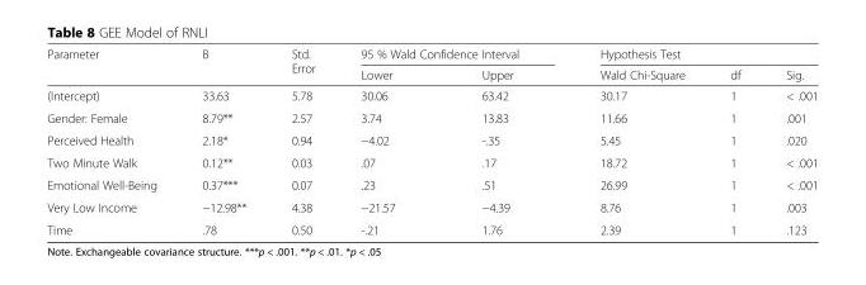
<table><thead><tr><td rowspan="2">Parameter</td><td rowspan="2">B</td><td rowspan="2">Std. Error</td><td colspan="2">95 % Wald Confidence Interval</td><td colspan="3">Hypothesis Test</td></tr><tr><td>Lower</td><td>Upper</td><td>Wald Chi-Square</td><td>df</td><td>Sig.</td></tr></thead><tbody><tr><td>(Intercept)</td><td>33.63</td><td>5.78</td><td>30.06</td><td>63.42</td><td>30.17</td><td>1</td><td>&lt; .001</td></tr><tr><td>Gender: Female</td><td>8.79**</td><td>2.57</td><td>3.74</td><td>13.83</td><td>11.66</td><td>1</td><td>.001</td></tr><tr><td>Perceived Health</td><td>2.18*</td><td>0.94</td><td>−4.02</td><td>-.35</td><td>5.45</td><td>1</td><td>.020</td></tr><tr><td>Two Minute Walk</td><td>0.12**</td><td>0.03</td><td>.07</td><td>.17</td><td>18.72</td><td>1</td><td>&lt; .001</td></tr><tr><td>Emotional Well-Being</td><td>0.37***</td><td>0.07</td><td>.23</td><td>.51</td><td>26.99</td><td>1</td><td>&lt; .001</td></tr><tr><td>Very Low Income</td><td>−12.98**</td><td>4.38</td><td>−21.57</td><td>−4.39</td><td>8.76</td><td>1</td><td>.003</td></tr><tr><td>Time</td><td>.78</td><td>0.50</td><td>-.21</td><td>1.76</td><td>2.39</td><td>1</td><td>.123</td></tr></tbody></table>